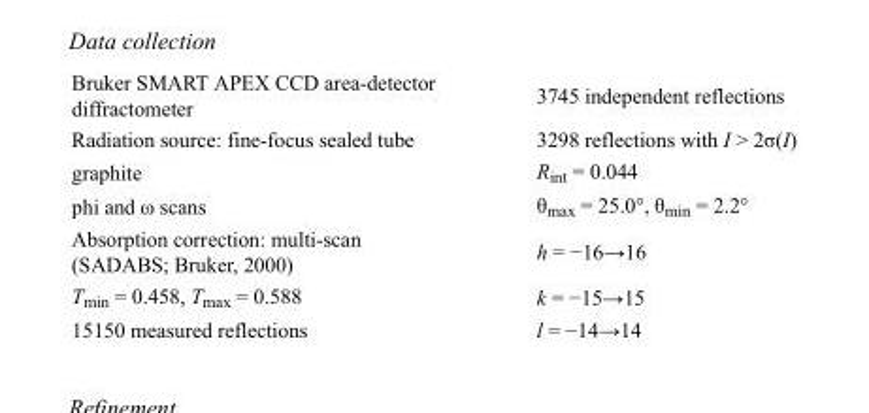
<table><tbody><tr><td>Bruker SMART APEX CCD area-detector diffractometer</td><td>3745 independent reflections</td></tr><tr><td>Radiation source: fine-focus sealed tube</td><td>3298 reflections with I &gt; 2σ(I)</td></tr><tr><td>graphite</td><td>R<sub>int</sub> = 0.044</td></tr><tr><td>phi and ω scans</td><td>θ<sub>max</sub> = 25.0°, θ<sub>min</sub> = 2.2°</td></tr><tr><td>Absorption correction: multi-scan (SADABS; Bruker, 2000)</td><td>h = −16→16</td></tr><tr><td>T<sub>min</sub> = 0.458, T<sub>max</sub> = 0.588</td><td>k = −15→15</td></tr><tr><td>15150 measured reflections</td><td>l = −14→14</td></tr></tbody></table>